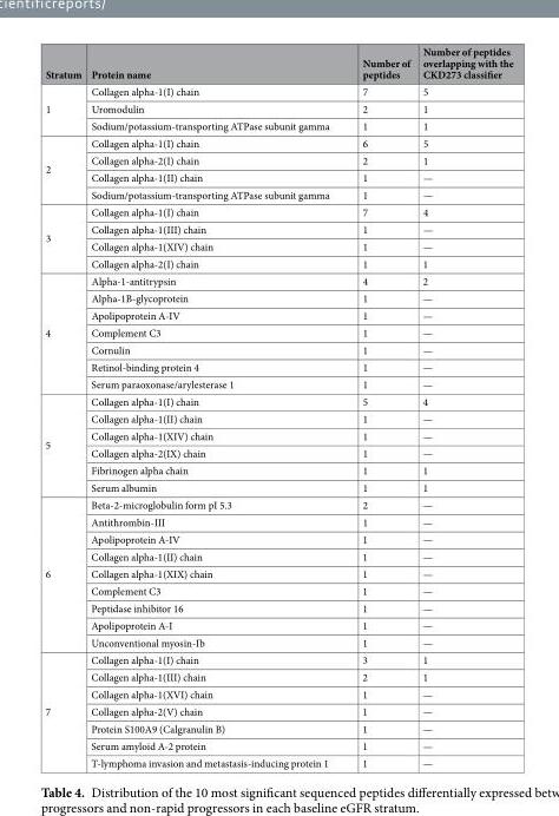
<table><thead><tr><td>Stratum</td><td>Protein name</td><td>Number of peptides</td><td>Number of peptides overlapping with the CKD273 classifier</td></tr></thead><tbody><tr><td rowspan="3">1</td><td>Collagen alpha-1(I) chain</td><td>7</td><td>5</td></tr><tr><td>Uromodulin</td><td>2</td><td>1</td></tr><tr><td>Sodium/potassium-transporting ATPase subunit gamma</td><td>1</td><td>1</td></tr><tr><td rowspan="4">2</td><td>Collagen alpha-1(I) chain</td><td>6</td><td>5</td></tr><tr><td>Collagen alpha-2(I) chain</td><td>2</td><td>1</td></tr><tr><td>Collagen alpha-1(II) chain</td><td>1</td><td>—</td></tr><tr><td>Sodium/potassium-transporting ATPase subunit gamma</td><td>1</td><td>—</td></tr><tr><td rowspan="4">3</td><td>Collagen alpha-1(I) chain</td><td>7</td><td>4</td></tr><tr><td>Collagen alpha-1(III) chain</td><td>1</td><td>—</td></tr><tr><td>Collagen alpha-1(XIV) chain</td><td>1</td><td>—</td></tr><tr><td>Collagen alpha-2(I) chain</td><td>1</td><td>1</td></tr><tr><td rowspan="7">4</td><td>Alpha-1-antitrypsin</td><td>4</td><td>2</td></tr><tr><td>Alpha-1B-glycoprotein</td><td>1</td><td>—</td></tr><tr><td>Apolipoprotein A-IV</td><td>1</td><td>—</td></tr><tr><td>Complement C3</td><td>1</td><td>—</td></tr><tr><td>Cornulin</td><td>1</td><td>—</td></tr><tr><td>Retinol-binding protein 4</td><td>1</td><td>—</td></tr><tr><td>Serum paraoxonase/arylesterase 1</td><td>1</td><td>—</td></tr><tr><td rowspan="6">5</td><td>Collagen alpha-1(I) chain</td><td>5</td><td>4</td></tr><tr><td>Collagen alpha-1(II) chain</td><td>1</td><td>—</td></tr><tr><td>Collagen alpha-1(XIV) chain</td><td>1</td><td>—</td></tr><tr><td>Collagen alpha-2(IX) chain</td><td>1</td><td>—</td></tr><tr><td>Fibrinogen alpha chain</td><td>1</td><td>1</td></tr><tr><td>Serum albumin</td><td>1</td><td>1</td></tr><tr><td rowspan="9">6</td><td>Beta-2-microglobulin form pI 5.3</td><td>2</td><td>—</td></tr><tr><td>Antithrombin-III</td><td>1</td><td>—</td></tr><tr><td>Apolipoprotein A-IV</td><td>1</td><td>—</td></tr><tr><td>Collagen alpha-1(II) chain</td><td>1</td><td>—</td></tr><tr><td>Collagen alpha-1(XIX) chain</td><td>1</td><td>—</td></tr><tr><td>Complement C3</td><td>1</td><td>—</td></tr><tr><td>Peptidase inhibitor 16</td><td>1</td><td>—</td></tr><tr><td>Apolipoprotein A-I</td><td>1</td><td>—</td></tr><tr><td>Unconventional myosin-Ib</td><td>1</td><td>—</td></tr><tr><td rowspan="7">7</td><td>Collagen alpha-1(I) chain</td><td>3</td><td>1</td></tr><tr><td>Collagen alpha-1(III) chain</td><td>2</td><td>1</td></tr><tr><td>Collagen alpha-1(XVI) chain</td><td>1</td><td>—</td></tr><tr><td>Collagen alpha-2(V) chain</td><td>1</td><td>—</td></tr><tr><td>Protein S100A9 (Calgranulin B)</td><td>1</td><td>—</td></tr><tr><td>Serum amyloid A-2 protein</td><td>1</td><td>—</td></tr><tr><td>T-lymphoma invasion and metastasis-inducing protein 1</td><td>1</td><td>—</td></tr></tbody></table>